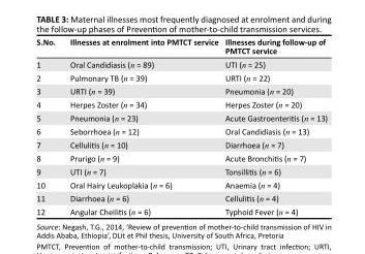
<table><thead><tr><td>S.No.</td><td>Illnesses at enrolment into PMTCT service</td><td>Illnesses during follow-up of PMTCT service</td></tr></thead><tbody><tr><td>1</td><td>Oral Candidiasis (n = 89)</td><td>UTI (n = 25)</td></tr><tr><td>2</td><td>Pulmonary TB (n = 39)</td><td>URTI (n = 22)</td></tr><tr><td>3</td><td>URTI (n = 39)</td><td>Pneumonia (n = 20)</td></tr><tr><td>4</td><td>Herpes Zoster (n = 34)</td><td>Herpes Zoster (n = 20)</td></tr><tr><td>5</td><td>Pneumonia (n = 23)</td><td>Acute Gastroenteritis (n = 13)</td></tr><tr><td>6</td><td>Seborrhoea (n = 12)</td><td>Oral Candidiasis (n = 13)</td></tr><tr><td>7</td><td>Cellulitis (n = 10)</td><td>Diarrhoea (n = 7)</td></tr><tr><td>8</td><td>Prurigo (n = 9)</td><td>Acute Bronchitis (n = 7)</td></tr><tr><td>9</td><td>UTI (n = 7)</td><td>Tonsillitis (n = 6)</td></tr><tr><td>10</td><td>Oral Hairy Leukoplakia (n = 6)</td><td>Anaemia (n = 4)</td></tr><tr><td>11</td><td>Diarrhoea (n = 6)</td><td>Cellulitis (n = 4)</td></tr><tr><td>12</td><td>Angular Cheilitis (n = 6)</td><td>Typhoid Fever (n = 4)</td></tr></tbody></table>